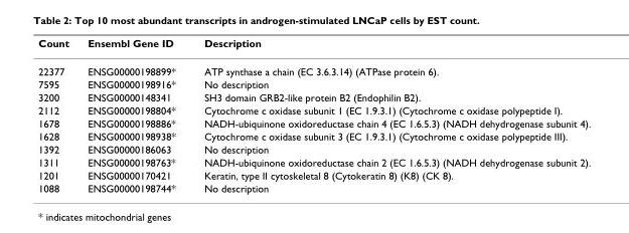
<table><thead><tr><td>Count</td><td>Ensembl Gene ID</td><td>Description</td></tr></thead><tbody><tr><td>22377</td><td>ENSG00000198899*</td><td>ATP synthase a chain (EC 3.6.3.14) (ATPase protein 6).</td></tr><tr><td>7595</td><td>ENSG00000198916*</td><td>No description</td></tr><tr><td>3200</td><td>ENSG00000148341</td><td>SH3 domain GRB2-like protein B2 (Endophilin B2).</td></tr><tr><td>2112</td><td>ENSG00000198804*</td><td>Cytochrome c oxidase subunit 1 (EC 1.9.3.1) (Cytochrome c oxidase polypeptide I).</td></tr><tr><td>1678</td><td>ENSG00000198886*</td><td>NADH-ubiquinone oxidoreductase chain 4 (EC 1.6.5.3) (NADH dehydrogenase subunit 4).</td></tr><tr><td>1628</td><td>ENSG00000198938*</td><td>Cytochrome c oxidase subunit 3 (EC 1.9.3.1) (Cytochrome c oxidase polypeptide III).</td></tr><tr><td>1392</td><td>ENSG00000186063</td><td>No description</td></tr><tr><td>1311</td><td>ENSG00000198763*</td><td>NADH-ubiquinone oxidoreductase chain 2 (EC 1.6.5.3) (NADH dehydrogenase subunit 2).</td></tr><tr><td>1201</td><td>ENSG00000170421</td><td>Keratin, type II cytoskeletal 8 (Cytokeratin 8) (K8) (CK 8).</td></tr><tr><td>1088</td><td>ENSG00000198744*</td><td>No description</td></tr></tbody></table>